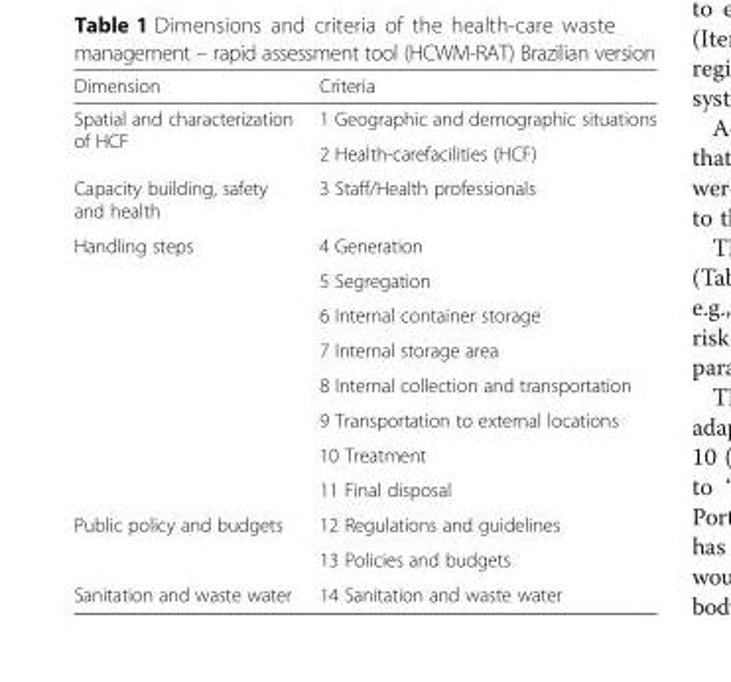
<table><thead><tr><td>Dimension</td><td>Criteria</td></tr></thead><tbody><tr><td rowspan="2">Spatial and characterization of HCF</td><td>1 Geographic and demographic situations</td></tr><tr><td>2 Health-carefacilities (HCF)</td></tr><tr><td>Capacity building, safety and health</td><td>3 Staff/Health professionals</td></tr><tr><td rowspan="8">Handling steps</td><td>4 Generation</td></tr><tr><td>5 Segregation</td></tr><tr><td>6 Internal container storage</td></tr><tr><td>7 Internal storage area</td></tr><tr><td>8 Internal collection and transportation</td></tr><tr><td>9 Transportation to external locations</td></tr><tr><td>10 Treatment</td></tr><tr><td>11 Final disposal</td></tr><tr><td rowspan="2">Public policy and budgets</td><td>12 Regulations and guidelines</td></tr><tr><td>13 Policies and budgets</td></tr><tr><td>Sanitation and waste water</td><td>14 Sanitation and waste water</td></tr></tbody></table>